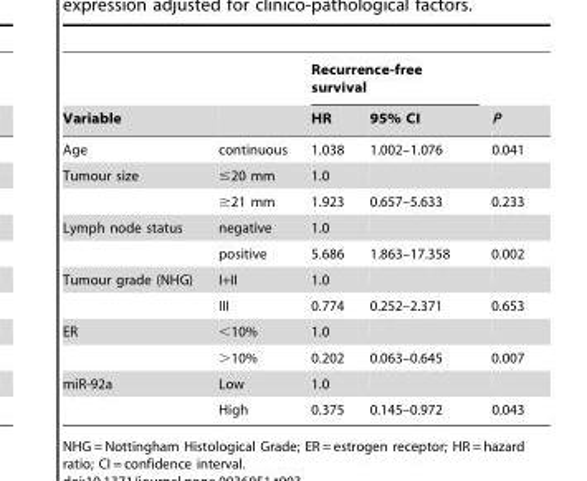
<table><thead><tr><td rowspan="2">Variable</td><td rowspan="2"></td><td colspan="2">Recurrence-free survival</td><td rowspan="2">P</td></tr><tr><td>HR</td><td>95% CI</td></tr></thead><tbody><tr><td>Age</td><td>continuous</td><td>1.038</td><td>1.002–1.076</td><td>0.041</td></tr><tr><td rowspan="2">Tumour size</td><td>≤20 mm</td><td>1.0</td><td></td><td></td></tr><tr><td>≥21 mm</td><td>1.923</td><td>0.657–5.633</td><td>0.233</td></tr><tr><td rowspan="2">Lymph node status</td><td>negative</td><td>1.0</td><td></td><td></td></tr><tr><td>positive</td><td>5.686</td><td>1.863–17.358</td><td>0.002</td></tr><tr><td rowspan="2">Tumour grade (NHG)</td><td>I+II</td><td>1.0</td><td></td><td></td></tr><tr><td>III</td><td>0.774</td><td>0.252–2.371</td><td>0.653</td></tr><tr><td rowspan="2">ER</td><td>&lt;10%</td><td>1.0</td><td></td><td></td></tr><tr><td>&gt;10%</td><td>0.202</td><td>0.063–0.645</td><td>0.007</td></tr><tr><td rowspan="2">miR-92a</td><td>Low</td><td>1.0</td><td></td><td></td></tr><tr><td>High</td><td>0.375</td><td>0.145–0.972</td><td>0.043</td></tr></tbody></table>